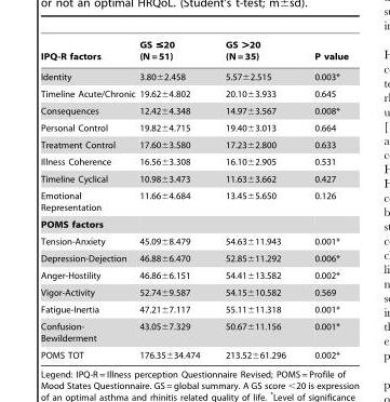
<table><thead><tr><td>IPQ-R factors</td><td>GS ≤20 (N = 51)</td><td>GS &gt;20 (N = 35)</td><td>P value</td></tr></thead><tbody><tr><td>Identity</td><td>3.80±2.458</td><td>5.57±2.515</td><td>0.003*</td></tr><tr><td>Timeline Acute/Chronic</td><td>19.62±4.802</td><td>20.10±3.933</td><td>0.645</td></tr><tr><td>Consequences</td><td>12.42±4.348</td><td>14.97±3.567</td><td>0.008*</td></tr><tr><td>Personal Control</td><td>19.82±4.715</td><td>19.40±3.013</td><td>0.664</td></tr><tr><td>Treatment Control</td><td>17.60±3.580</td><td>17.23±2.800</td><td>0.633</td></tr><tr><td>Illness Coherence</td><td>16.56±3.308</td><td>16.10±2.905</td><td>0.531</td></tr><tr><td>Timeline Cyclical</td><td>10.98±3.473</td><td>11.63±3.662</td><td>0.427</td></tr><tr><td>Emotional Representation</td><td>11.66±4.684</td><td>13.45±5.650</td><td>0.126</td></tr><tr><td colspan="4">POMS factors</td></tr><tr><td>Tension-Anxiety</td><td>45.09±8.479</td><td>54.63±11.943</td><td>0.001*</td></tr><tr><td>Depression-Dejection</td><td>46.88±6.470</td><td>52.85±11.292</td><td>0.006*</td></tr><tr><td>Anger-Hostility</td><td>46.86±6.151</td><td>54.41±13.582</td><td>0.002*</td></tr><tr><td>Vigor-Activity</td><td>52.74±9.587</td><td>54.15±10.582</td><td>0.569</td></tr><tr><td>Fatigue-Inertia</td><td>47.21±7.117</td><td>55.11±11.318</td><td>0.001*</td></tr><tr><td>Confusion- Bewilderment</td><td>43.05±7.329</td><td>50.67±11.156</td><td>0.001*</td></tr><tr><td>POMS TOT</td><td>176.35±34.474</td><td>213.52±61.296</td><td>0.002*</td></tr></tbody></table>